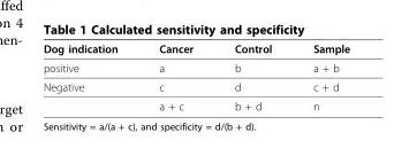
<table><tbody><tr><td>Dog indication</td><td>Cancer</td><td>Control</td><td>Sample</td></tr><tr><td>positive</td><td>a</td><td>b</td><td>a + b</td></tr><tr><td rowspan="2">Negative</td><td>c</td><td>d</td><td>c + d</td></tr><tr><td>a + c</td><td>b + d</td><td>n</td></tr></tbody></table>